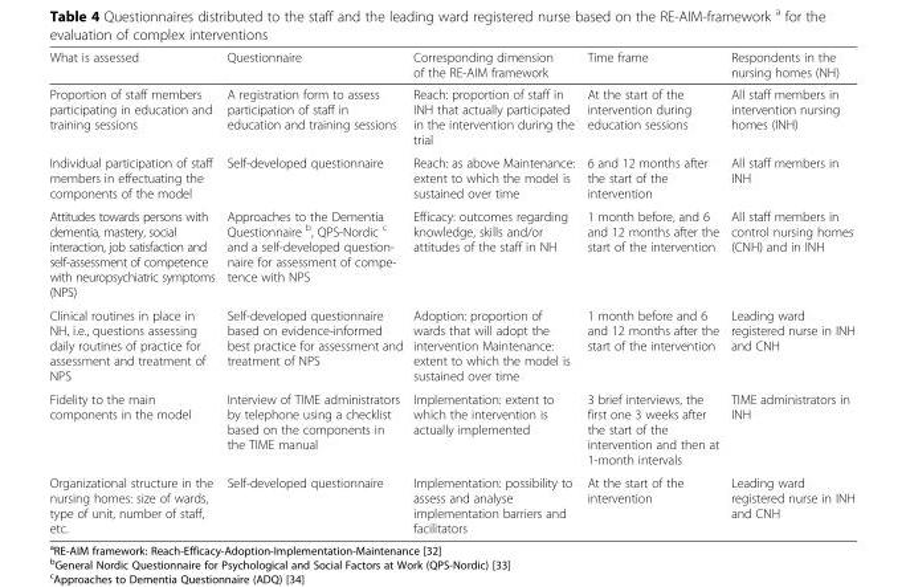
<table><thead><tr><td>What is assessed</td><td>Questionnaire</td><td>Corresponding dimension of the RE-AIM framework</td><td>Time frame</td><td>Respondents in the nursing homes (NH)</td></tr></thead><tbody><tr><td>Proportion of staff members participating in education and training sessions</td><td>A registration form to assess participation of staff in education and training sessions</td><td>Reach: proportion of staff in INH that actually participated in the intervention during the trial</td><td>At the start of the intervention during education sessions</td><td>All staff members in intervention nursing homes (INH)</td></tr><tr><td>Individual participation of staff members in effectuating the components of the model</td><td>Self-developed questionnaire</td><td>Reach: as above Maintenance: extent to which the model is sustained over time</td><td>6 and 12 months after the start of the intervention</td><td>All staff members in INH</td></tr><tr><td>Attitudes towards persons with dementia, mastery, social interaction, job satisfaction and self-assessment of competence with neuropsychiatric symptoms (NPS)</td><td>Approaches to the Dementia Questionnaire b, QPS-Nordic c and a self-developed question- naire for assessment of compe- tence with NPS</td><td>Efficacy: outcomes regarding knowledge, skills and/or attitudes of the staff in NH</td><td>1 month before, and 6 and 12 months after the start of the intervention</td><td>All staff members in control nursing homes (CNH) and in INH</td></tr><tr><td>Clinical routines in place in NH, i.e., questions assessing daily routines of practice for assessment and treatment of NPS</td><td>Self-developed questionnaire based on evidence-informed best practice for assessment and treatment of NPS</td><td>Adoption: proportion of wards that will adopt the intervention Maintenance: extent to which the model is sustained over time</td><td>1 month before and 6 and 12 months after the start of the intervention</td><td>Leading ward registered nurse in INH and CNH</td></tr><tr><td>Fidelity to the main components in the model</td><td>Interview of TIME administrators by telephone using a checklist based on the components in the TIME manual</td><td>Implementation: extent to which the intervention is actually implemented</td><td>3 brief interviews, the first one 3 weeks after the start of the intervention and then at 1-month intervals</td><td>TIME administrators in INH</td></tr><tr><td>Organizational structure in the nursing homes: size of wards, type of unit, number of staff, etc.</td><td>Self-developed questionnaire</td><td>Implementation: possibility to assess and analyse implementation barriers and facilitators</td><td>At the start of the intervention</td><td>Leading ward registered nurse in INH and CNH</td></tr></tbody></table>